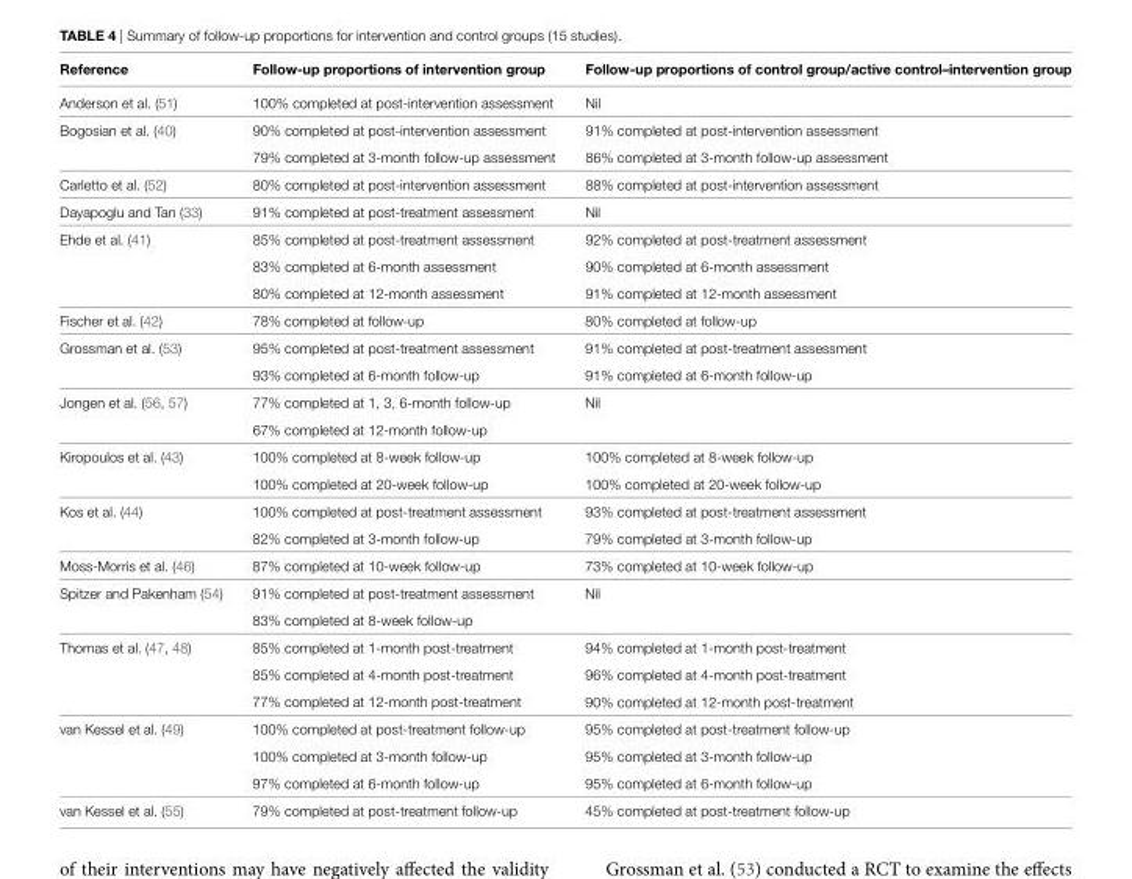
<table><thead><tr><td>Reference</td><td>Follow-up proportions of intervention group</td><td>Follow-up proportions of control group/active control–intervention group</td></tr></thead><tbody><tr><td>Anderson et al. (51)</td><td>100% completed at post-intervention assessment</td><td>Nil</td></tr><tr><td>Bogosian et al. (40)</td><td>90% completed at post-intervention assessment 79% completed at 3-month follow-up assessment</td><td>91% completed at post-intervention assessment 86% completed at 3-month follow-up assessment</td></tr><tr><td>Carletto et al. (52)</td><td>80% completed at post-intervention assessment</td><td>88% completed at post-intervention assessment</td></tr><tr><td>Dayapoglu and Tan (33)</td><td>91% completed at post-treatment assessment</td><td>Nil</td></tr><tr><td>Ehde et al. (41)</td><td>85% completed at post-treatment assessment 83% completed at 6-month assessment 80% completed at 12-month assessment</td><td>92% completed at post-treatment assessment 90% completed at 6-month assessment 91% completed at 12-month assessment</td></tr><tr><td>Fischer et al. (42)</td><td>78% completed at follow-up</td><td>80% completed at follow-up</td></tr><tr><td>Grossman et al. (53)</td><td>95% completed at post-treatment assessment 93% completed at 6-month follow-up</td><td>91% completed at post-treatment assessment 91% completed at 6-month follow-up</td></tr><tr><td>Jongen et al. (56, 57)</td><td>77% completed at 1, 3, 6-month follow-up 67% completed at 12-month follow-up</td><td>Nil</td></tr><tr><td>Kiropoulos et al. (43)</td><td>100% completed at 8-week follow-up 100% completed at 20-week follow-up</td><td>100% completed at 8-week follow-up 100% completed at 20-week follow-up</td></tr><tr><td>Kos et al. (44)</td><td>100% completed at post-treatment assessment 82% completed at 3-month follow-up</td><td>93% completed at post-treatment assessment 79% completed at 3-month follow-up</td></tr><tr><td>Moss-Morris et al. (46)</td><td>87% completed at 10-week follow-up</td><td>73% completed at 10-week follow-up</td></tr><tr><td>Spitzer and Pakenham (54)</td><td>91% completed at post-treatment assessment 83% completed at 8-week follow-up</td><td>Nil</td></tr><tr><td>Thomas et al. (47, 48)</td><td>85% completed at 1-month post-treatment 85% completed at 4-month post-treatment 77% completed at 12-month post-treatment</td><td>94% completed at 1-month post-treatment 96% completed at 4-month post-treatment 90% completed at 12-month post-treatment</td></tr><tr><td>van Kessel et al. (49)</td><td>100% completed at post-treatment follow-up 100% completed at 3-month follow-up 97% completed at 6-month follow-up</td><td>95% completed at post-treatment follow-up 95% completed at 3-month follow-up 95% completed at 6-month follow-up</td></tr><tr><td>van Kessel et al. (55)</td><td>79% completed at post-treatment follow-up</td><td>45% completed at post-treatment follow-up</td></tr></tbody></table>